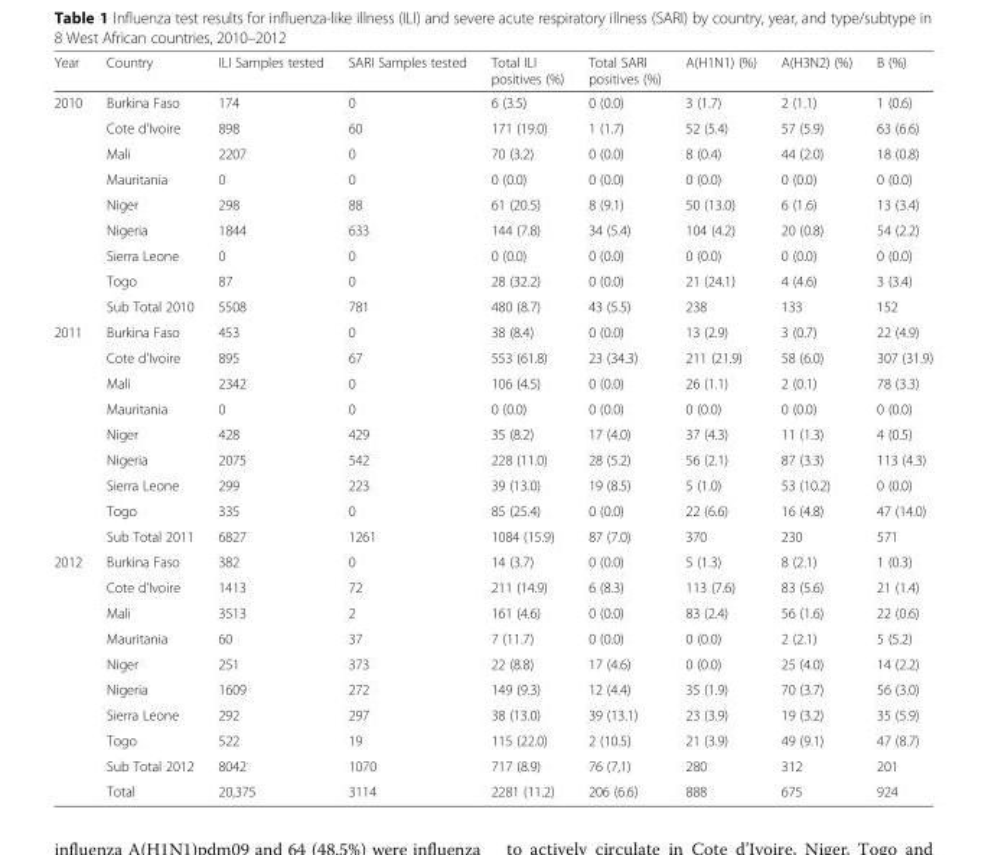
<table><thead><tr><td>Year</td><td>Country</td><td>ILI Samples tested</td><td>SARI Samples tested</td><td>Total ILI positives (%)</td><td>Total SARI positives (%)</td><td>A(H1N1) (%)</td><td>A(H3N2) (%)</td><td>B (%)</td></tr></thead><tbody><tr><td rowspan="9">2010</td><td>Burkina Faso</td><td>174</td><td>0</td><td>6 (3.5)</td><td>0 (0.0)</td><td>3 (1.7)</td><td>2 (1.1)</td><td>1 (0.6)</td></tr><tr><td>Cote d’Ivoire</td><td>898</td><td>60</td><td>171 (19.0)</td><td>1 (1.7)</td><td>52 (5.4)</td><td>57 (5.9)</td><td>63 (6.6)</td></tr><tr><td>Mali</td><td>2207</td><td>0</td><td>70 (3.2)</td><td>0 (0.0)</td><td>8 (0.4)</td><td>44 (2.0)</td><td>18 (0.8)</td></tr><tr><td>Mauritania</td><td>0</td><td>0</td><td>0 (0.0)</td><td>0 (0.0)</td><td>0 (0.0)</td><td>0 (0.0)</td><td>0 (0.0)</td></tr><tr><td>Niger</td><td>298</td><td>88</td><td>61 (20.5)</td><td>8 (9.1)</td><td>50 (13.0)</td><td>6 (1.6)</td><td>13 (3.4)</td></tr><tr><td>Nigeria</td><td>1844</td><td>633</td><td>144 (7.8)</td><td>34 (5.4)</td><td>104 (4.2)</td><td>20 (0.8)</td><td>54 (2.2)</td></tr><tr><td>Sierra Leone</td><td>0</td><td>0</td><td>0 (0.0)</td><td>0 (0.0)</td><td>0 (0.0)</td><td>0 (0.0)</td><td>0 (0.0)</td></tr><tr><td>Togo</td><td>87</td><td>0</td><td>28 (32.2)</td><td>0 (0.0)</td><td>21 (24.1)</td><td>4 (4.6)</td><td>3 (3.4)</td></tr><tr><td>Sub Total 2010</td><td>5508</td><td>781</td><td>480 (8.7)</td><td>43 (5.5)</td><td>238</td><td>133</td><td>152</td></tr><tr><td rowspan="9">2011</td><td>Burkina Faso</td><td>453</td><td>0</td><td>38 (8.4)</td><td>0 (0.0)</td><td>13 (2.9)</td><td>3 (0.7)</td><td>22 (4.9)</td></tr><tr><td>Cote d’Ivoire</td><td>895</td><td>67</td><td>553 (61.8)</td><td>23 (34.3)</td><td>211 (21.9)</td><td>58 (6.0)</td><td>307 (31.9)</td></tr><tr><td>Mali</td><td>2342</td><td>0</td><td>106 (4.5)</td><td>0 (0.0)</td><td>26 (1.1)</td><td>2 (0.1)</td><td>78 (3.3)</td></tr><tr><td>Mauritania</td><td>0</td><td>0</td><td>0 (0.0)</td><td>0 (0.0)</td><td>0 (0.0)</td><td>0 (0.0)</td><td>0 (0.0)</td></tr><tr><td>Niger</td><td>428</td><td>429</td><td>35 (8.2)</td><td>17 (4.0)</td><td>37 (4.3)</td><td>11 (1.3)</td><td>4 (0.5)</td></tr><tr><td>Nigeria</td><td>2075</td><td>542</td><td>228 (11.0)</td><td>28 (5.2)</td><td>56 (2.1)</td><td>87 (3.3)</td><td>113 (4.3)</td></tr><tr><td>Sierra Leone</td><td>299</td><td>223</td><td>39 (13.0)</td><td>19 (8.5)</td><td>5 (1.0)</td><td>53 (10.2)</td><td>0 (0.0)</td></tr><tr><td>Togo</td><td>335</td><td>0</td><td>85 (25.4)</td><td>0 (0.0)</td><td>22 (6.6)</td><td>16 (4.8)</td><td>47 (14.0)</td></tr><tr><td>Sub Total 2011</td><td>6827</td><td>1261</td><td>1084 (15.9)</td><td>87 (7.0)</td><td>370</td><td>230</td><td>571</td></tr><tr><td rowspan="10">2012</td><td>Burkina Faso</td><td>382</td><td>0</td><td>14 (3.7)</td><td>0 (0.0)</td><td>5 (1.3)</td><td>8 (2.1)</td><td>1 (0.3)</td></tr><tr><td>Cote d’Ivoire</td><td>1413</td><td>72</td><td>211 (14.9)</td><td>6 (8.3)</td><td>113 (7.6)</td><td>83 (5.6)</td><td>21 (1.4)</td></tr><tr><td>Mali</td><td>3513</td><td>2</td><td>161 (4.6)</td><td>0 (0.0)</td><td>83 (2.4)</td><td>56 (1.6)</td><td>22 (0.6)</td></tr><tr><td>Mauritania</td><td>60</td><td>37</td><td>7 (11.7)</td><td>0 (0.0)</td><td>0 (0.0)</td><td>2 (2.1)</td><td>5 (5.2)</td></tr><tr><td>Niger</td><td>251</td><td>373</td><td>22 (8.8)</td><td>17 (4.6)</td><td>0 (0.0)</td><td>25 (4.0)</td><td>14 (2.2)</td></tr><tr><td>Nigeria</td><td>1609</td><td>272</td><td>149 (9.3)</td><td>12 (4.4)</td><td>35 (1.9)</td><td>70 (3.7)</td><td>56 (3.0)</td></tr><tr><td>Sierra Leone</td><td>292</td><td>297</td><td>38 (13.0)</td><td>39 (13.1)</td><td>23 (3.9)</td><td>19 (3.2)</td><td>35 (5.9)</td></tr><tr><td>Togo</td><td>522</td><td>19</td><td>115 (22.0)</td><td>2 (10.5)</td><td>21 (3.9)</td><td>49 (9.1)</td><td>47 (8.7)</td></tr><tr><td>Sub Total 2012</td><td>8042</td><td>1070</td><td>717 (8.9)</td><td>76 (7,1)</td><td>280</td><td>312</td><td>201</td></tr><tr><td>Total</td><td>20,375</td><td>3114</td><td>2281 (11.2)</td><td>206 (6.6)</td><td>888</td><td>675</td><td>924</td></tr></tbody></table>